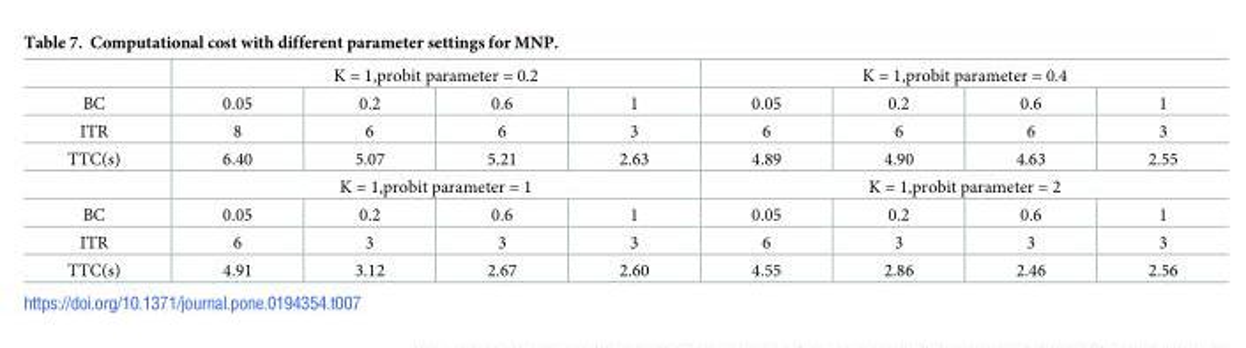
<table><thead><tr><td rowspan="2">BC</td><td colspan="4">K = 1,probit parameter = 0.2</td><td colspan="4">K = 1,probit parameter = 0.4</td></tr><tr><td>0.05</td><td>0.2</td><td>0.6</td><td>1</td><td>0.05</td><td>0.2</td><td>0.6</td><td>1</td></tr></thead><tbody><tr><td>ITR</td><td>8</td><td>6</td><td>6</td><td>3</td><td>6</td><td>6</td><td>6</td><td>3</td></tr><tr><td rowspan="2">TTC(s)</td><td>6.40</td><td>5.07</td><td>5.21</td><td>2.63</td><td>4.89</td><td>4.90</td><td>4.63</td><td>2.55</td></tr><tr><td colspan="4">K = 1,probit parameter = 1</td><td colspan="4">K = 1,probit parameter = 2</td></tr><tr><td>BC</td><td>0.05</td><td>0.2</td><td>0.6</td><td>1</td><td>0.05</td><td>0.2</td><td>0.6</td><td>1</td></tr><tr><td>ITR</td><td>6</td><td>3</td><td>3</td><td>3</td><td>6</td><td>3</td><td>3</td><td>3</td></tr><tr><td>TTC(s)</td><td>4.91</td><td>3.12</td><td>2.67</td><td>2.60</td><td>4.55</td><td>2.86</td><td>2.46</td><td>2.56</td></tr></tbody></table>